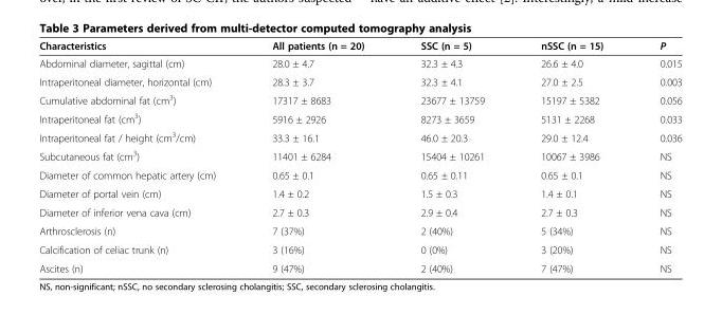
<table><thead><tr><td>Characteristics</td><td>All patients (n = 20)</td><td>SSC (n = 5)</td><td>nSSC (n = 15)</td><td>P</td></tr></thead><tbody><tr><td>Abdominal diameter, sagittal (cm)</td><td>28.0 ± 4.7</td><td>32.3 ± 4.3</td><td>26.6 ± 4.0</td><td>0.015</td></tr><tr><td>Intraperitoneal diameter, horizontal (cm)</td><td>28.3 ± 3.7</td><td>32.3 ± 4.1</td><td>27.0 ± 2.5</td><td>0.003</td></tr><tr><td>Cumulative abdominal fat (cm<sup>3</sup>)</td><td>17317 ± 8683</td><td>23677 ± 13759</td><td>15197 ± 5382</td><td>0.056</td></tr><tr><td>Intraperitoneal fat (cm<sup>3</sup>)</td><td>5916 ± 2926</td><td>8273 ± 3659</td><td>5131 ± 2268</td><td>0.033</td></tr><tr><td>Intraperitoneal fat / height (cm<sup>3</sup>/cm)</td><td>33.3 ± 16.1</td><td>46.0 ± 20.3</td><td>29.0 ± 12.4</td><td>0.036</td></tr><tr><td>Subcutaneous fat (cm<sup>3</sup>)</td><td>11401 ± 6284</td><td>15404 ± 10261</td><td>10067 ± 3986</td><td>NS</td></tr><tr><td>Diameter of common hepatic artery (cm)</td><td>0.65 ± 0.1</td><td>0.65 ± 0.11</td><td>0.65 ± 0.1</td><td>NS</td></tr><tr><td>Diameter of portal vein (cm)</td><td>1.4 ± 0.2</td><td>1.5 ± 0.3</td><td>1.4 ± 0.1</td><td>NS</td></tr><tr><td>Diameter of inferior vena cava (cm)</td><td>2.7 ± 0.3</td><td>2.9 ± 0.4</td><td>2.7 ± 0.3</td><td>NS</td></tr><tr><td>Arthrosclerosis (n)</td><td>7 (37%)</td><td>2 (40%)</td><td>5 (34%)</td><td>NS</td></tr><tr><td>Calcification of celiac trunk (n)</td><td>3 (16%)</td><td>0 (0%)</td><td>3 (20%)</td><td>NS</td></tr><tr><td>Ascites (n)</td><td>9 (47%)</td><td>2 (40%)</td><td>7 (47%)</td><td>NS</td></tr></tbody></table>